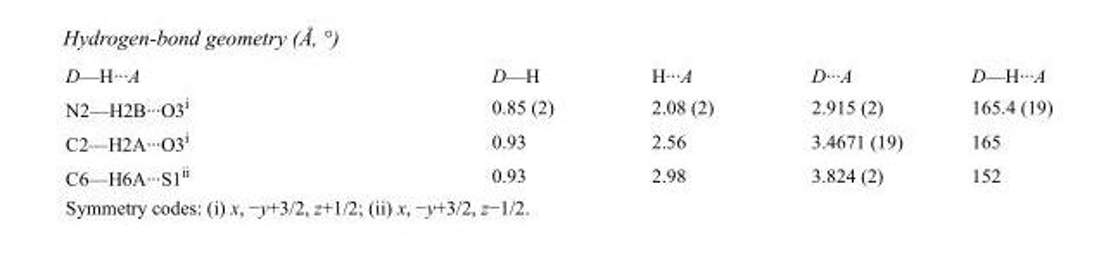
<table><tbody><tr><td>D—H···A</td><td>D—H</td><td>H···A</td><td>D···A</td><td>D—H···A</td></tr><tr><td>N2—H2B···O3<sup>i</sup></td><td>0.85 (2)</td><td>2.08 (2)</td><td>2.915 (2)</td><td>165.4 (19)</td></tr><tr><td>C2—H2A···O3<sup>i</sup></td><td>0.93</td><td>2.56</td><td>3.4671 (19)</td><td>165</td></tr><tr><td>C6—H6A···S1<sup>ii</sup></td><td>0.93</td><td>2.98</td><td>3.824 (2)</td><td>152</td></tr></tbody></table>